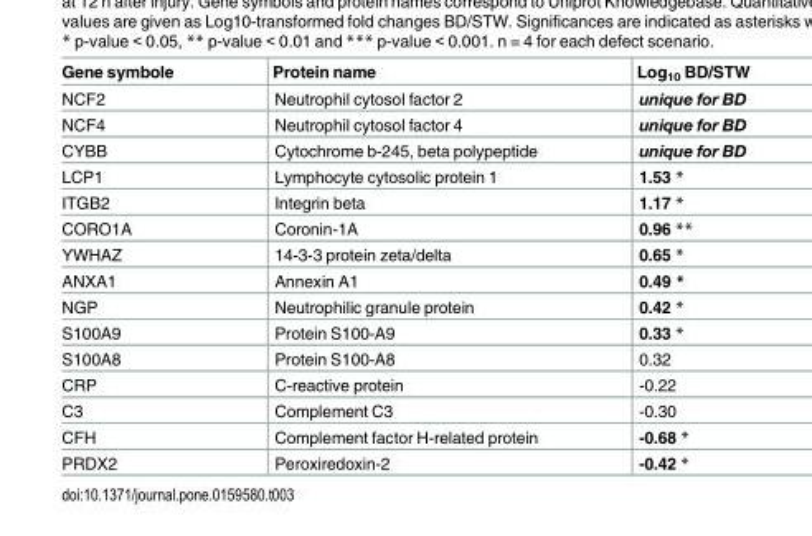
<table><thead><tr><td>Gene symbole</td><td>Protein name</td><td>Log<sub>10</sub> BD/STW</td></tr></thead><tbody><tr><td>NCF2</td><td>Neutrophil cytosol factor 2</td><td>unique for BD</td></tr><tr><td>NCF4</td><td>Neutrophil cytosol factor 4</td><td>unique for BD</td></tr><tr><td>CYBB</td><td>Cytochrome b-245, beta polypeptide</td><td>unique for BD</td></tr><tr><td>LCP1</td><td>Lymphocyte cytosolic protein 1</td><td>1.53 *</td></tr><tr><td>ITGB2</td><td>Integrin beta</td><td>1.17 *</td></tr><tr><td>CORO1A</td><td>Coronin-1A</td><td>0.96 **</td></tr><tr><td>YWHAZ</td><td>14-3-3 protein zeta/delta</td><td>0.65 *</td></tr><tr><td>ANXA1</td><td>Annexin A1</td><td>0.49 *</td></tr><tr><td>NGP</td><td>Neutrophilic granule protein</td><td>0.42 *</td></tr><tr><td>S100A9</td><td>Protein S100-A9</td><td>0.33 *</td></tr><tr><td>S100A8</td><td>Protein S100-A8</td><td>0.32</td></tr><tr><td>CRP</td><td>C-reactive protein</td><td>-0.22</td></tr><tr><td>C3</td><td>Complement C3</td><td>-0.30</td></tr><tr><td>CFH</td><td>Complement factor H-related protein</td><td>-0.68 *</td></tr><tr><td>PRDX2</td><td>Peroxiredoxin-2</td><td>-0.42 *</td></tr></tbody></table>